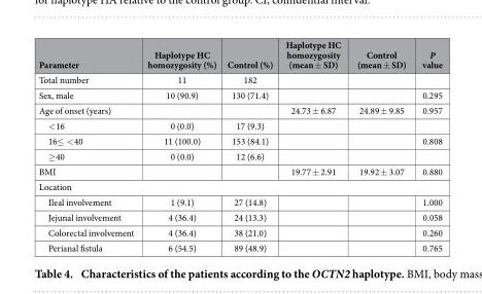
<table><thead><tr><td>Parameter</td><td>Haplotype HC homozygosity (%)</td><td>Control (%)</td><td>Haplotype HC homozygosity (mean ± SD)</td><td>Control (mean ± SD)</td><td>P value</td></tr></thead><tbody><tr><td>Total number</td><td>11</td><td>182</td><td></td><td></td><td></td></tr><tr><td>Sex, male</td><td>10 (90.9)</td><td>130 (71.4)</td><td></td><td></td><td>0.295</td></tr><tr><td>Age of onset (years)</td><td></td><td></td><td>24.73 ± 6.87</td><td>24.89 ± 9.85</td><td>0.957</td></tr><tr><td>&lt; 16</td><td>0 (0.0)</td><td>17 (9.3)</td><td></td><td></td><td></td></tr><tr><td>16≤ &lt; 40</td><td>11 (100.0)</td><td>153 (84.1)</td><td></td><td></td><td>0.808</td></tr><tr><td>≥ 40</td><td>0 (0.0)</td><td>12 (6.6)</td><td></td><td></td><td></td></tr><tr><td>BMI</td><td></td><td></td><td>19.77 ± 2.91</td><td>19.92 ± 3.07</td><td>0.880</td></tr><tr><td colspan="6">Location</td></tr><tr><td>Ileal involvement</td><td>1 (9.1)</td><td>27 (14.8)</td><td></td><td></td><td>1.000</td></tr><tr><td>Jejunal involvement</td><td>4 (36.4)</td><td>24 (13.3)</td><td></td><td></td><td>0.058</td></tr><tr><td>Colorectal involvement</td><td>4 (36.4)</td><td>38 (21.0)</td><td></td><td></td><td>0.260</td></tr><tr><td>Perianal fistula</td><td>6 (54.5)</td><td>89 (48.9)</td><td></td><td></td><td>0.765</td></tr></tbody></table>